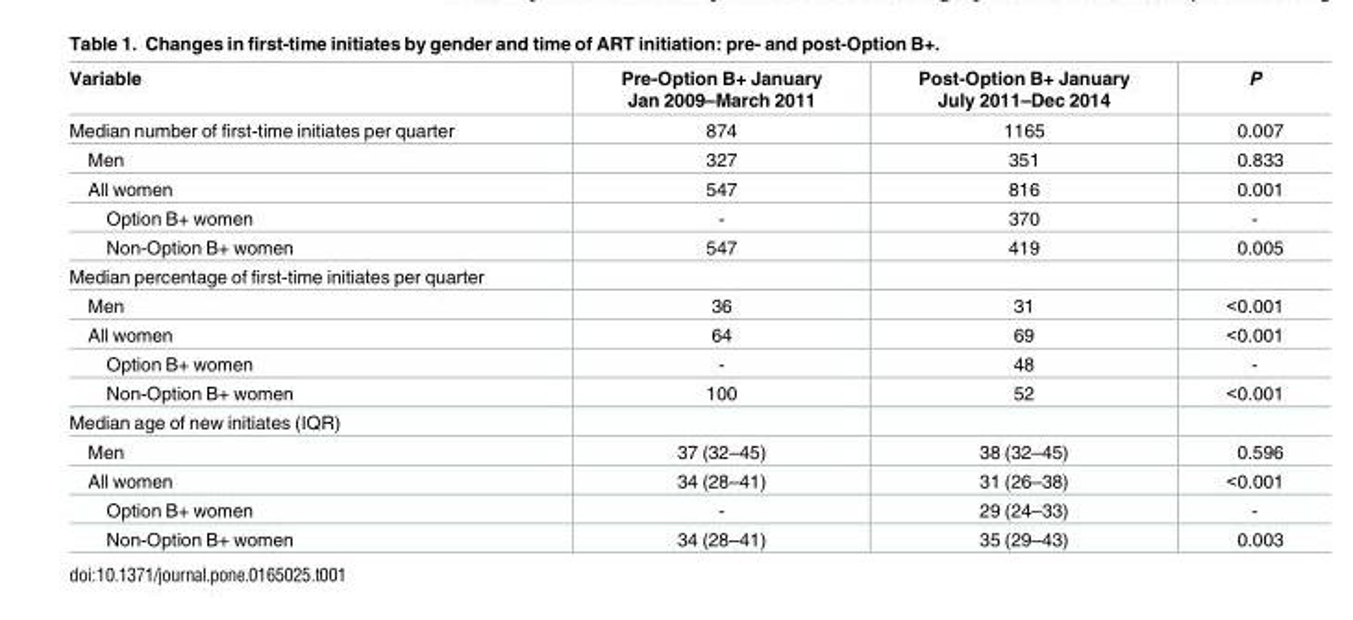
<table><thead><tr><td>Variable</td><td>Pre-Option B+ January Jan 2009–March 2011</td><td>Post-Option B+ January July 2011–Dec 2014</td><td>P</td></tr></thead><tbody><tr><td>Median number of first-time initiates per quarter</td><td>874</td><td>1165</td><td>0.007</td></tr><tr><td>Men</td><td>327</td><td>351</td><td>0.833</td></tr><tr><td>All women</td><td>547</td><td>816</td><td>0.001</td></tr><tr><td>Option B+ women</td><td>-</td><td>370</td><td>-</td></tr><tr><td>Non-Option B+ women</td><td>547</td><td>419</td><td>0.005</td></tr><tr><td colspan="4">Median percentage of first-time initiates per quarter</td></tr><tr><td>Men</td><td>36</td><td>31</td><td>&lt;0.001</td></tr><tr><td>All women</td><td>64</td><td>69</td><td>&lt;0.001</td></tr><tr><td>Option B+ women</td><td>-</td><td>48</td><td>-</td></tr><tr><td>Non-Option B+ women</td><td>100</td><td>52</td><td>&lt;0.001</td></tr><tr><td colspan="4">Median age of new initiates (IQR)</td></tr><tr><td>Men</td><td>37 (32–45)</td><td>38 (32–45)</td><td>0.596</td></tr><tr><td>All women</td><td>34 (28–41)</td><td>31 (26–38)</td><td>&lt;0.001</td></tr><tr><td>Option B+ women</td><td>-</td><td>29 (24–33)</td><td>-</td></tr><tr><td>Non-Option B+ women</td><td>34 (28–41)</td><td>35 (29–43)</td><td>0.003</td></tr></tbody></table>